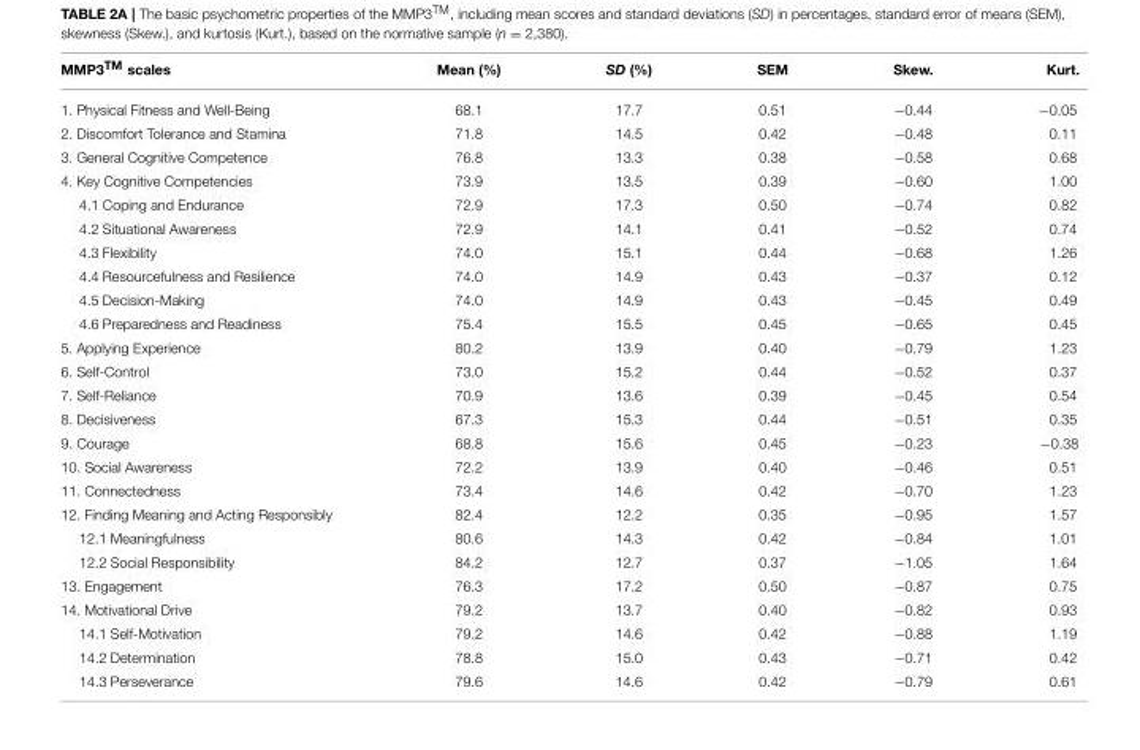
<table><thead><tr><td>MMP3TM scales</td><td>Mean (%)</td><td>SD (%)</td><td>SEM</td><td>Skew.</td><td>Kurt.</td></tr></thead><tbody><tr><td>1. Physical Fitness and Well-Being</td><td>68.1</td><td>17.7</td><td>0.51</td><td>−0.44</td><td>−0.05</td></tr><tr><td>2. Discomfort Tolerance and Stamina</td><td>71.8</td><td>14.5</td><td>0.42</td><td>−0.48</td><td>0.11</td></tr><tr><td>3. General Cognitive Competence</td><td>76.8</td><td>13.3</td><td>0.38</td><td>−0.58</td><td>0.68</td></tr><tr><td>4. Key Cognitive Competencies</td><td>73.9</td><td>13.5</td><td>0.39</td><td>−0.60</td><td>1.00</td></tr><tr><td>4.1 Coping and Endurance</td><td>72.9</td><td>17.3</td><td>0.50</td><td>−0.74</td><td>0.82</td></tr><tr><td>4.2 Situational Awareness</td><td>72.9</td><td>14.1</td><td>0.41</td><td>−0.52</td><td>0.74</td></tr><tr><td>4.3 Flexibility</td><td>74.0</td><td>15.1</td><td>0.44</td><td>−0.68</td><td>1.26</td></tr><tr><td>4.4 Resourcefulness and Resilience</td><td>74.0</td><td>14.9</td><td>0.43</td><td>−0.37</td><td>0.12</td></tr><tr><td>4.5 Decision-Making</td><td>74.0</td><td>14.9</td><td>0.43</td><td>−0.45</td><td>0.49</td></tr><tr><td>4.6 Preparedness and Readiness</td><td>75.4</td><td>15.5</td><td>0.45</td><td>−0.65</td><td>0.45</td></tr><tr><td>5. Applying Experience</td><td>80.2</td><td>13.9</td><td>0.40</td><td>−0.79</td><td>1.23</td></tr><tr><td>6. Self-Control</td><td>73.0</td><td>15.2</td><td>0.44</td><td>−0.52</td><td>0.37</td></tr><tr><td>7. Self-Reliance</td><td>70.9</td><td>13.6</td><td>0.39</td><td>−0.45</td><td>0.54</td></tr><tr><td>8. Decisiveness</td><td>67.3</td><td>15.3</td><td>0.44</td><td>−0.51</td><td>0.35</td></tr><tr><td>9. Courage</td><td>68.8</td><td>15.6</td><td>0.45</td><td>−0.23</td><td>−0.38</td></tr><tr><td>10. Social Awareness</td><td>72.2</td><td>13.9</td><td>0.40</td><td>−0.46</td><td>0.51</td></tr><tr><td>11. Connectedness</td><td>73.4</td><td>14.6</td><td>0.42</td><td>−0.70</td><td>1.23</td></tr><tr><td>12. Finding Meaning and Acting Responsibly</td><td>82.4</td><td>12.2</td><td>0.35</td><td>−0.95</td><td>1.57</td></tr><tr><td>12.1 Meaningfulness</td><td>80.6</td><td>14.3</td><td>0.42</td><td>−0.84</td><td>1.01</td></tr><tr><td>12.2 Social Responsibility</td><td>84.2</td><td>12.7</td><td>0.37</td><td>−1.05</td><td>1.64</td></tr><tr><td>13. Engagement</td><td>76.3</td><td>17.2</td><td>0.50</td><td>−0.87</td><td>0.75</td></tr><tr><td>14. Motivational Drive</td><td>79.2</td><td>13.7</td><td>0.40</td><td>−0.82</td><td>0.93</td></tr><tr><td>14.1 Self-Motivation</td><td>79.2</td><td>14.6</td><td>0.42</td><td>−0.88</td><td>1.19</td></tr><tr><td>14.2 Determination</td><td>78.8</td><td>15.0</td><td>0.43</td><td>−0.71</td><td>0.42</td></tr><tr><td>14.3 Perseverance</td><td>79.6</td><td>14.6</td><td>0.42</td><td>−0.79</td><td>0.61</td></tr></tbody></table>